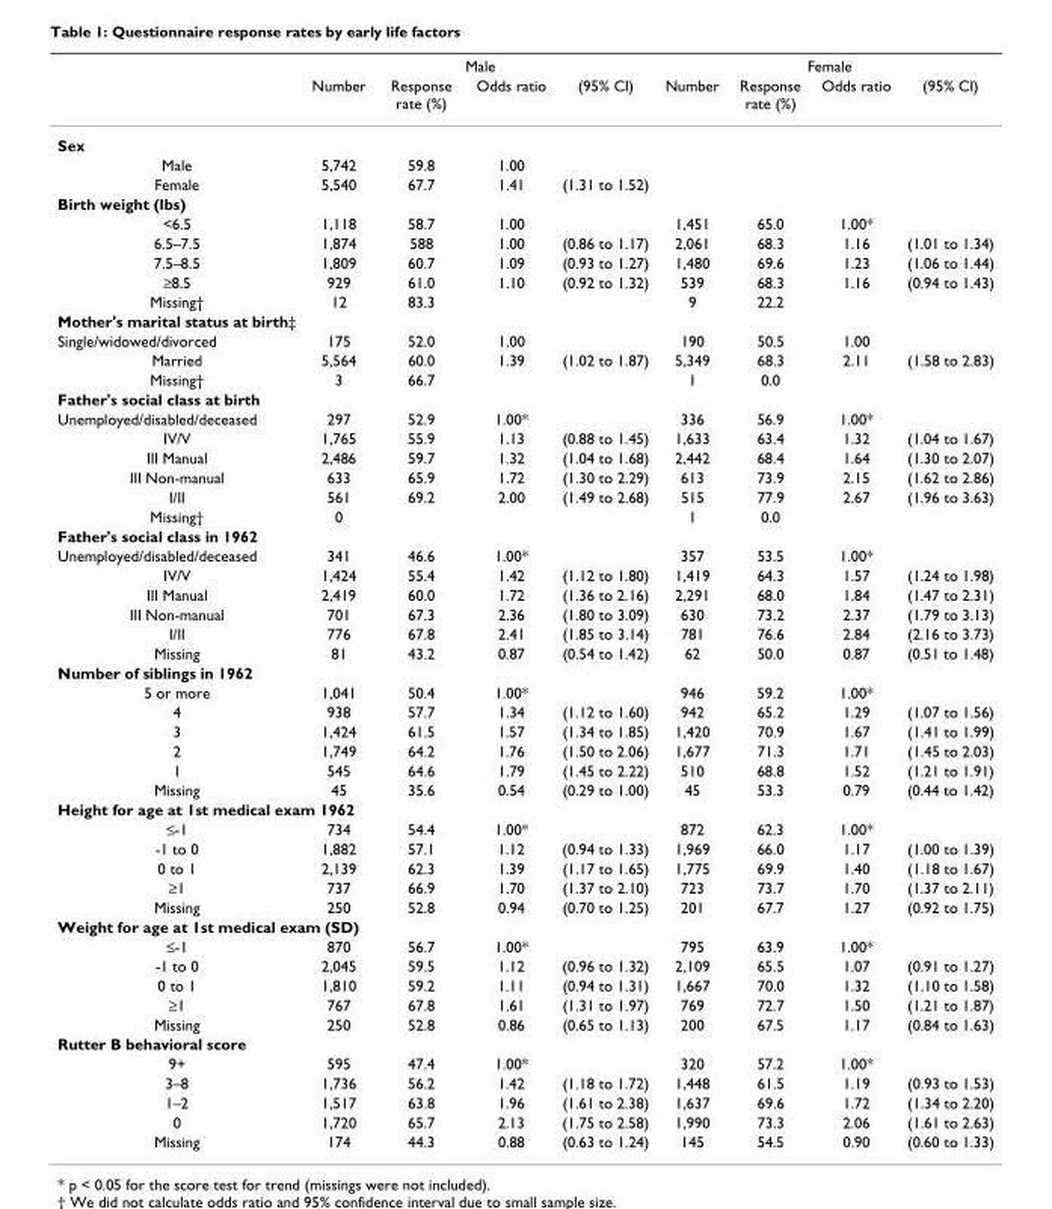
<table><thead><tr><td rowspan="2"></td><td colspan="4">Male</td><td colspan="4">Female</td></tr><tr><td>Number</td><td>Response rate (%)</td><td>Odds ratio</td><td>(95% CI)</td><td>Number</td><td>Response rate (%)</td><td>Odds ratio</td><td>(95% CI)</td></tr></thead><tbody><tr><td colspan="9">Sex</td></tr><tr><td>Male</td><td>5,742</td><td>59.8</td><td>1.00</td><td></td><td></td><td></td><td></td><td></td></tr><tr><td>Female</td><td>5,540</td><td>67.7</td><td>1.41</td><td>(1.31 to 1.52)</td><td></td><td></td><td></td><td></td></tr><tr><td colspan="9">Birth weight (lbs)</td></tr><tr><td>&lt;6.5</td><td>1,118</td><td>58.7</td><td>1.00</td><td></td><td>1,451</td><td>65.0</td><td>1.00*</td><td></td></tr><tr><td>6.5–7.5</td><td>1,874</td><td>588</td><td>1.00</td><td>(0.86 to 1.17)</td><td>2,061</td><td>68.3</td><td>1.16</td><td>(1.01 to 1.34)</td></tr><tr><td>7.5–8.5</td><td>1,809</td><td>60.7</td><td>1.09</td><td>(0.93 to 1.27)</td><td>1,480</td><td>69.6</td><td>1.23</td><td>(1.06 to 1.44)</td></tr><tr><td>≥8.5</td><td>929</td><td>61.0</td><td>1.10</td><td>(0.92 to 1.32)</td><td>539</td><td>68.3</td><td>1.16</td><td>(0.94 to 1.43)</td></tr><tr><td>Missing†</td><td>12</td><td>83.3</td><td></td><td></td><td>9</td><td>22.2</td><td></td><td></td></tr><tr><td colspan="9">Mother&#x27;s marital status at birth‡</td></tr><tr><td>Single/widowed/divorced</td><td>175</td><td>52.0</td><td>1.00</td><td></td><td>190</td><td>50.5</td><td>1.00</td><td></td></tr><tr><td>Married</td><td>5,564</td><td>60.0</td><td>1.39</td><td>(1.02 to 1.87)</td><td>5,349</td><td>68.3</td><td>2.11</td><td>(1.58 to 2.83)</td></tr><tr><td>Missing†</td><td>3</td><td>66.7</td><td></td><td></td><td>1</td><td>0.0</td><td></td><td></td></tr><tr><td colspan="9">Father&#x27;s social class at birth</td></tr><tr><td>Unemployed/disabled/deceased</td><td>297</td><td>52.9</td><td>1.00*</td><td></td><td>336</td><td>56.9</td><td>1.00*</td><td></td></tr><tr><td>IV/V</td><td>1,765</td><td>55.9</td><td>1.13</td><td>(0.88 to 1.45)</td><td>1,633</td><td>63.4</td><td>1.32</td><td>(1.04 to 1.67)</td></tr><tr><td>III Manual</td><td>2,486</td><td>59.7</td><td>1.32</td><td>(1.04 to 1.68)</td><td>2,442</td><td>68.4</td><td>1.64</td><td>(1.30 to 2.07)</td></tr><tr><td>III Non-manual</td><td>633</td><td>65.9</td><td>1.72</td><td>(1.30 to 2.29)</td><td>613</td><td>73.9</td><td>2.15</td><td>(1.62 to 2.86)</td></tr><tr><td>I/II</td><td>561</td><td>69.2</td><td>2.00</td><td>(1.49 to 2.68)</td><td>515</td><td>77.9</td><td>2.67</td><td>(1.96 to 3.63)</td></tr><tr><td>Missing†</td><td>0</td><td></td><td></td><td></td><td>1</td><td>0.0</td><td></td><td></td></tr><tr><td colspan="9">Father&#x27;s social class in 1962</td></tr><tr><td>Unemployed/disabled/deceased</td><td>341</td><td>46.6</td><td>1.00*</td><td></td><td>357</td><td>53.5</td><td>1.00*</td><td></td></tr><tr><td>IV/V</td><td>1,424</td><td>55.4</td><td>1.42</td><td>(1.12 to 1.80)</td><td>1,419</td><td>64.3</td><td>1.57</td><td>(1.24 to 1.98)</td></tr><tr><td>III Manual</td><td>2,419</td><td>60.0</td><td>1.72</td><td>(1.36 to 2.16)</td><td>2,291</td><td>68.0</td><td>1.84</td><td>(1.47 to 2.31)</td></tr><tr><td>III Non-manual</td><td>701</td><td>67.3</td><td>2.36</td><td>(1.80 to 3.09)</td><td>630</td><td>73.2</td><td>2.37</td><td>(1.79 to 3.13)</td></tr><tr><td>I/II</td><td>776</td><td>67.8</td><td>2.41</td><td>(1.85 to 3.14)</td><td>781</td><td>76.6</td><td>2.84</td><td>(2.16 to 3.73)</td></tr><tr><td>Missing</td><td>81</td><td>43.2</td><td>0.87</td><td>(0.54 to 1.42)</td><td>62</td><td>50.0</td><td>0.87</td><td>(0.51 to 1.48)</td></tr><tr><td colspan="9">Number of siblings in 1962</td></tr><tr><td>5 or more</td><td>1,041</td><td>50.4</td><td>1.00*</td><td></td><td>946</td><td>59.2</td><td>1.00*</td><td></td></tr><tr><td>4</td><td>938</td><td>57.7</td><td>1.34</td><td>(1.12 to 1.60)</td><td>942</td><td>65.2</td><td>1.29</td><td>(1.07 to 1.56)</td></tr><tr><td>3</td><td>1,424</td><td>61.5</td><td>1.57</td><td>(1.34 to 1.85)</td><td>1,420</td><td>70.9</td><td>1.67</td><td>(1.41 to 1.99)</td></tr><tr><td>2</td><td>1,749</td><td>64.2</td><td>1.76</td><td>(1.50 to 2.06)</td><td>1,677</td><td>71.3</td><td>1.71</td><td>(1.45 to 2.03)</td></tr><tr><td>1</td><td>545</td><td>64.6</td><td>1.79</td><td>(1.45 to 2.22)</td><td>510</td><td>68.8</td><td>1.52</td><td>(1.21 to 1.91)</td></tr><tr><td>Missing</td><td>45</td><td>35.6</td><td>0.54</td><td>(0.29 to 1.00)</td><td>45</td><td>53.3</td><td>0.79</td><td>(0.44 to 1.42)</td></tr><tr><td colspan="9">Height for age at 1st medical exam 1962</td></tr><tr><td>≤-1</td><td>734</td><td>54.4</td><td>1.00*</td><td></td><td>872</td><td>62.3</td><td>1.00*</td><td></td></tr><tr><td>-1 to 0</td><td>1,882</td><td>57.1</td><td>1.12</td><td>(0.94 to 1.33)</td><td>1,969</td><td>66.0</td><td>1.17</td><td>(1.00 to 1.39)</td></tr><tr><td>0 to 1</td><td>2,139</td><td>62.3</td><td>1.39</td><td>(1.17 to 1.65)</td><td>1,775</td><td>69.9</td><td>1.40</td><td>(1.18 to 1.67)</td></tr><tr><td>≥1</td><td>737</td><td>66.9</td><td>1.70</td><td>(1.37 to 2.10)</td><td>723</td><td>73.7</td><td>1.70</td><td>(1.37 to 2.11)</td></tr><tr><td>Missing</td><td>250</td><td>52.8</td><td>0.94</td><td>(0.70 to 1.25)</td><td>201</td><td>67.7</td><td>1.27</td><td>(0.92 to 1.75)</td></tr><tr><td colspan="9">Weight for age at 1st medical exam (SD)</td></tr><tr><td>≤-1</td><td>870</td><td>56.7</td><td>1.00*</td><td></td><td>795</td><td>63.9</td><td>1.00*</td><td></td></tr><tr><td>-1 to 0</td><td>2,045</td><td>59.5</td><td>1.12</td><td>(0.96 to 1.32)</td><td>2,109</td><td>65.5</td><td>1.07</td><td>(0.91 to 1.27)</td></tr><tr><td>0 to 1</td><td>1,810</td><td>59.2</td><td>1.11</td><td>(0.94 to 1.31)</td><td>1,667</td><td>70.0</td><td>1.32</td><td>(1.10 to 1.58)</td></tr><tr><td>≥1</td><td>767</td><td>67.8</td><td>1.61</td><td>(1.31 to 1.97)</td><td>769</td><td>72.7</td><td>1.50</td><td>(1.21 to 1.87)</td></tr><tr><td>Missing</td><td>250</td><td>52.8</td><td>0.86</td><td>(0.65 to 1.13)</td><td>200</td><td>67.5</td><td>1.17</td><td>(0.84 to 1.63)</td></tr><tr><td colspan="9">Rutter B behavioral score</td></tr><tr><td>9+</td><td>595</td><td>47.4</td><td>1.00*</td><td></td><td>320</td><td>57.2</td><td>1.00*</td><td></td></tr><tr><td>3–8</td><td>1,736</td><td>56.2</td><td>1.42</td><td>(1.18 to 1.72)</td><td>1,448</td><td>61.5</td><td>1.19</td><td>(0.93 to 1.53)</td></tr><tr><td>1–2</td><td>1,517</td><td>63.8</td><td>1.96</td><td>(1.61 to 2.38)</td><td>1,637</td><td>69.6</td><td>1.72</td><td>(1.34 to 2.20)</td></tr><tr><td>0</td><td>1,720</td><td>65.7</td><td>2.13</td><td>(1.75 to 2.58)</td><td>1,990</td><td>73.3</td><td>2.06</td><td>(1.61 to 2.63)</td></tr><tr><td>Missing</td><td>174</td><td>44.3</td><td>0.88</td><td>(0.63 to 1.24)</td><td>145</td><td>54.5</td><td>0.90</td><td>(0.60 to 1.33)</td></tr></tbody></table>